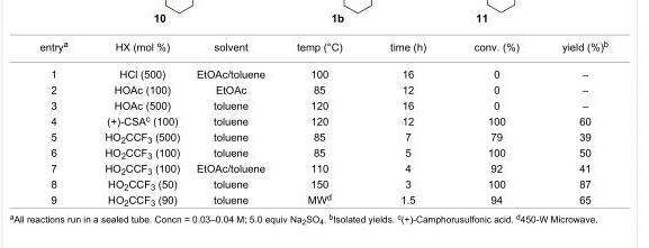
<table><tbody><tr><td>entry<sup>a</sup></td><td>HX (mol %)</td><td>solvent</td><td>temp (°C)</td><td>time (h)</td><td>conv. (%)</td><td>yield (%)<sup>b</sup></td></tr><tr><td>1</td><td>HCl (500)</td><td>EtOAc/toluene</td><td>100</td><td>16</td><td>0</td><td>–</td></tr><tr><td>2</td><td>HOAc (100)</td><td>EtOAc</td><td>85</td><td>12</td><td>0</td><td>–</td></tr><tr><td>3</td><td>HOAc (500)</td><td>toluene</td><td>120</td><td>16</td><td>0</td><td>–</td></tr><tr><td>4</td><td>(+)-CSA<sup>c</sup> (100)</td><td>toluene</td><td>120</td><td>12</td><td>100</td><td>60</td></tr><tr><td>5</td><td>HO<sub>2</sub>CCF<sub>3</sub> (500)</td><td>toluene</td><td>85</td><td>7</td><td>79</td><td>39</td></tr><tr><td>6</td><td>HO<sub>2</sub>CCF<sub>3</sub> (100)</td><td>toluene</td><td>85</td><td>5</td><td>100</td><td>50</td></tr><tr><td>7</td><td>HO<sub>2</sub>CCF<sub>3</sub> (100)</td><td>EtOAc/toluene</td><td>110</td><td>4</td><td>92</td><td>41</td></tr><tr><td>8</td><td>HO<sub>2</sub>CCF<sub>3</sub> (50)</td><td>toluene</td><td>150</td><td>3</td><td>100</td><td>87</td></tr><tr><td>9</td><td>HO<sub>2</sub>CCF<sub>3</sub> (90)</td><td>toluene</td><td>MW<sup>d</sup></td><td>1.5</td><td>94</td><td>65</td></tr></tbody></table>